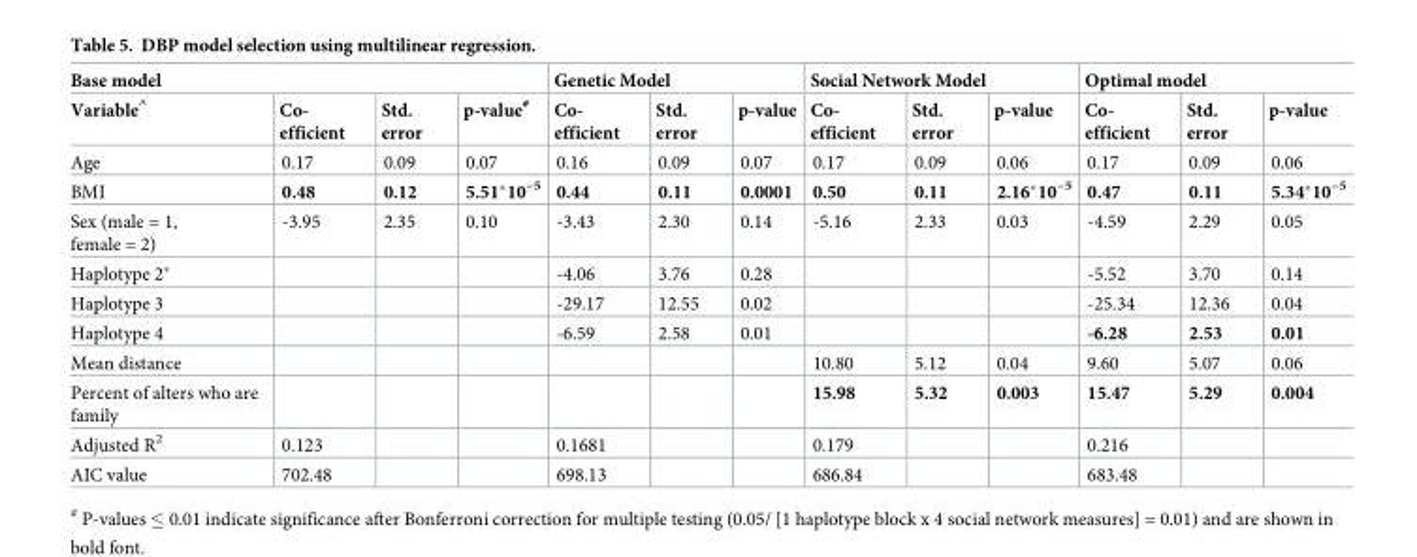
<table><thead><tr><td colspan="4">Base model</td><td colspan="3">Genetic Model</td><td colspan="3">Social Network Model</td><td colspan="3">Optimal model</td></tr><tr><td>Variable<sup>^</sup></td><td>Co- efficient</td><td>Std. error</td><td>p-value<sup>#</sup></td><td>Co- efficient</td><td>Std. error</td><td>p-value</td><td>Co- efficient</td><td>Std. error</td><td>p-value</td><td>Co- efficient</td><td>Std. error</td><td>p-value</td></tr></thead><tbody><tr><td>Age</td><td>0.17</td><td>0.09</td><td>0.07</td><td>0.16</td><td>0.09</td><td>0.07</td><td>0.17</td><td>0.09</td><td>0.06</td><td>0.17</td><td>0.09</td><td>0.06</td></tr><tr><td>BMI</td><td>0.48</td><td>0.12</td><td>5.51*10<sup>−5</sup></td><td>0.44</td><td>0.11</td><td>0.0001</td><td>0.50</td><td>0.11</td><td>2.16*10<sup>−5</sup></td><td>0.47</td><td>0.11</td><td>5.34*10<sup>−5</sup></td></tr><tr><td>Sex (male = 1, female = 2)</td><td>-3.95</td><td>2.35</td><td>0.10</td><td>-3.43</td><td>2.30</td><td>0.14</td><td>-5.16</td><td>2.33</td><td>0.03</td><td>-4.59</td><td>2.29</td><td>0.05</td></tr><tr><td>Haplotype 2*</td><td></td><td></td><td></td><td>-4.06</td><td>3.76</td><td>0.28</td><td></td><td></td><td></td><td>-5.52</td><td>3.70</td><td>0.14</td></tr><tr><td>Haplotype 3</td><td></td><td></td><td></td><td>-29.17</td><td>12.55</td><td>0.02</td><td></td><td></td><td></td><td>-25.34</td><td>12.36</td><td>0.04</td></tr><tr><td>Haplotype 4</td><td></td><td></td><td></td><td>-6.59</td><td>2.58</td><td>0.01</td><td></td><td></td><td></td><td>-6.28</td><td>2.53</td><td>0.01</td></tr><tr><td>Mean distance</td><td></td><td></td><td></td><td></td><td></td><td></td><td>10.80</td><td>5.12</td><td>0.04</td><td>9.60</td><td>5.07</td><td>0.06</td></tr><tr><td>Percent of alters who are family</td><td></td><td></td><td></td><td></td><td></td><td></td><td>15.98</td><td>5.32</td><td>0.003</td><td>15.47</td><td>5.29</td><td>0.004</td></tr><tr><td>Adjusted R<sup>2</sup></td><td>0.123</td><td></td><td></td><td>0.1681</td><td></td><td></td><td>0.179</td><td></td><td></td><td>0.216</td><td></td><td></td></tr><tr><td>AIC value</td><td>702.48</td><td></td><td></td><td>698.13</td><td></td><td></td><td>686.84</td><td></td><td></td><td>683.48</td><td></td><td></td></tr></tbody></table>